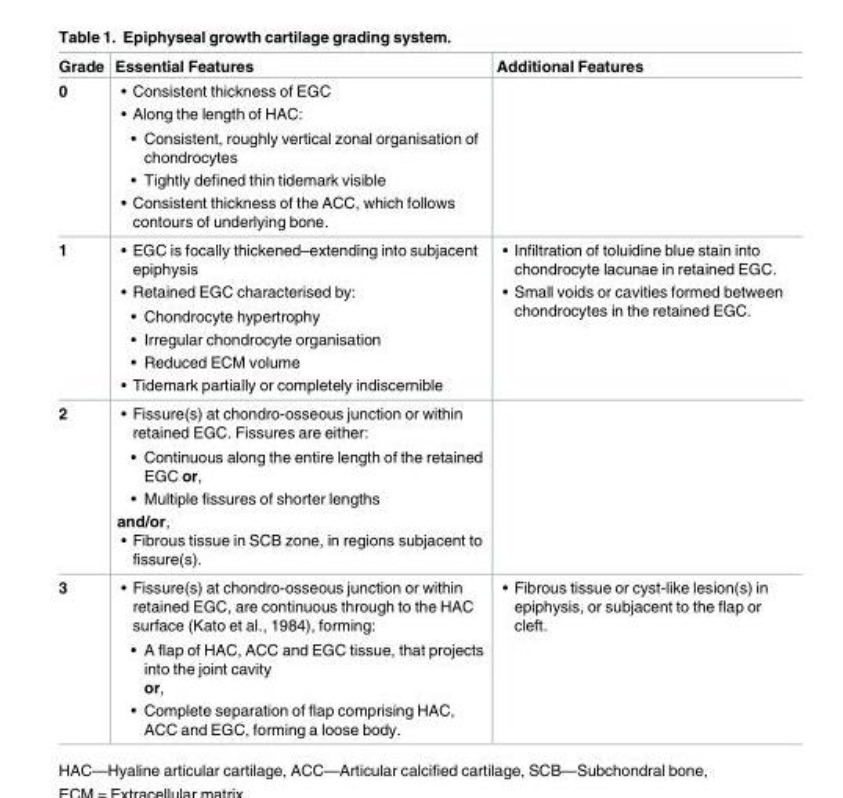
<table><thead><tr><td>Grade</td><td>Essential Features</td><td>Additional Features</td></tr></thead><tbody><tr><td>0</td><td>• Consistent thickness of EGC • Along the length of HAC: • Consistent, roughly vertical zonal organisation of chondrocytes • Tightly defined thin tidemark visible • Consistent thickness of the ACC, which follows contours of underlying bone.</td><td></td></tr><tr><td>1</td><td>• EGC is focally thickened–extending into subjacent epiphysis • Retained EGC characterised by: • Chondrocyte hypertrophy • Irregular chondrocyte organisation • Reduced ECM volume • Tidemark partially or completely indiscernible</td><td>• Infiltration of toluidine blue stain into chondrocyte lacunae in retained EGC. • Small voids or cavities formed between chondrocytes in the retained EGC.</td></tr><tr><td>2</td><td>• Fissure(s) at chondro-osseous junction or within retained EGC. Fissures are either: • Continuous along the entire length of the retained EGC or, • Multiple fissures of shorter lengths and/or, • Fibrous tissue in SCB zone, in regions subjacent to fissure(s).</td><td></td></tr><tr><td>3</td><td>• Fissure(s) at chondro-osseous junction or within retained EGC, are continuous through to the HAC surface (Kato et al., 1984), forming: • A flap of HAC, ACC and EGC tissue, that projects into the joint cavity or, • Complete separation of flap comprising HAC, ACC and EGC, forming a loose body.</td><td>• Fibrous tissue or cyst-like lesion(s) in epiphysis, or subjacent to the flap or cleft.</td></tr></tbody></table>